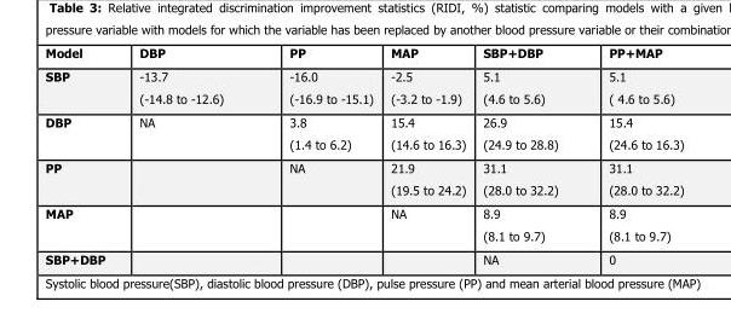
<table><thead><tr><td>Model</td><td>DBP</td><td>PP</td><td>MAP</td><td>SBP+DBP</td><td>PP+MAP</td></tr></thead><tbody><tr><td>SBP</td><td>-13.7 (-14.8 to -12.6)</td><td>-16.0 (-16.9 to -15.1)</td><td>-2.5 (-3.2 to -1.9)</td><td>5.1 (4.6 to 5.6)</td><td>5.1 ( 4.6 to 5.6)</td></tr><tr><td>DBP</td><td>NA</td><td>3.8 (1.4 to 6.2)</td><td>15.4 (14.6 to 16.3)</td><td>26.9 (24.9 to 28.8)</td><td>15.4 (24.6 to 16.3)</td></tr><tr><td>PP</td><td></td><td>NA</td><td>21.9 (19.5 to 24.2)</td><td>31.1 (28.0 to 32.2)</td><td>31.1 (28.0 to 32.2)</td></tr><tr><td>MAP</td><td></td><td></td><td>NA</td><td>8.9 (8.1 to 9.7)</td><td>8.9 (8.1 to 9.7)</td></tr><tr><td>SBP+DBP</td><td></td><td></td><td></td><td>NA</td><td>0</td></tr></tbody></table>